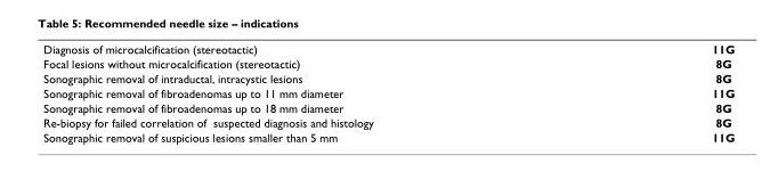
<table><tbody><tr><td>Diagnosis of microcalcification (stereotactic)</td><td>11G</td></tr><tr><td>Focal lesions without microcalcification (stereotactic)</td><td>8G</td></tr><tr><td>Sonographic removal of intraductal, intracystic lesions</td><td>8G</td></tr><tr><td>Sonographic removal of fibroadenomas up to 11 mm diameter</td><td>11G</td></tr><tr><td>Sonographic removal of fibroadenomas up to 18 mm diameter</td><td>8G</td></tr><tr><td>Re-biopsy for failed correlation of suspected diagnosis and histology</td><td>8G</td></tr><tr><td>Sonographic removal of suspicious lesions smaller than 5 mm</td><td>11G</td></tr></tbody></table>